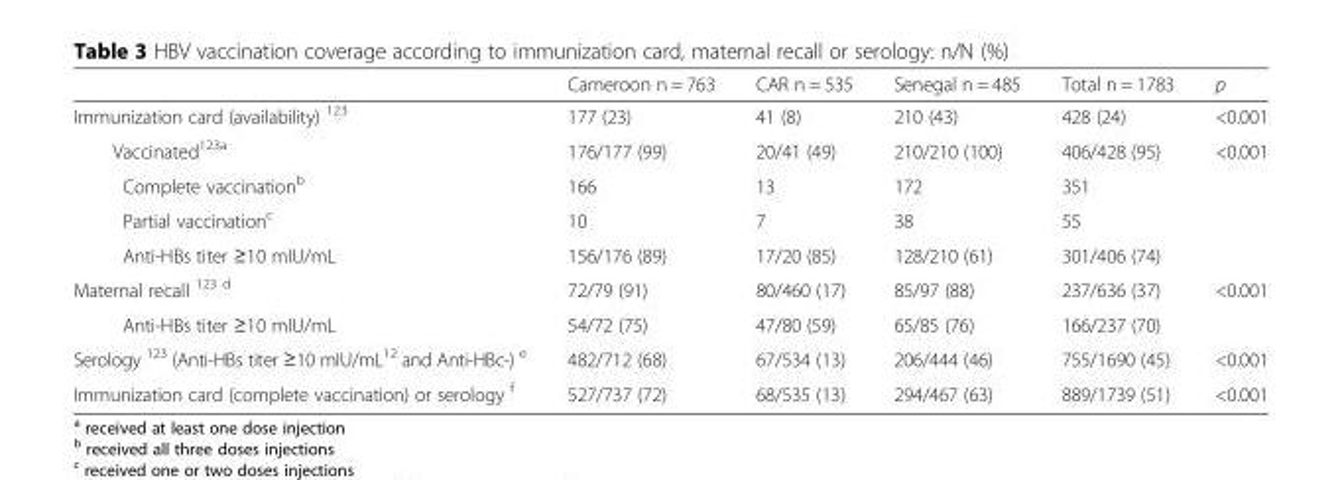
<table><thead><tr><td></td><td>Cameroon n = 763</td><td>CAR n = 535</td><td>Senegal n = 485</td><td>Total n = 1783</td><td>p</td></tr></thead><tbody><tr><td>Immunization card (availability) <sup>123</sup></td><td>177 (23)</td><td>41 (8)</td><td>210 (43)</td><td>428 (24)</td><td>&lt;0.001</td></tr><tr><td>Vaccinated<sup>123a</sup></td><td>176/177 (99)</td><td>20/41 (49)</td><td>210/210 (100)</td><td>406/428 (95)</td><td>&lt;0.001</td></tr><tr><td>Complete vaccination<sup>b</sup></td><td>166</td><td>13</td><td>172</td><td>351</td><td></td></tr><tr><td>Partial vaccination<sup>c</sup></td><td>10</td><td>7</td><td>38</td><td>55</td><td></td></tr><tr><td>Anti-HBs titer ≥10 mIU/mL</td><td>156/176 (89)</td><td>17/20 (85)</td><td>128/210 (61)</td><td>301/406 (74)</td><td></td></tr><tr><td>Maternal recall <sup>123 d</sup></td><td>72/79 (91)</td><td>80/460 (17)</td><td>85/97 (88)</td><td>237/636 (37)</td><td>&lt;0.001</td></tr><tr><td>Anti-HBs titer ≥10 mIU/mL</td><td>54/72 (75)</td><td>47/80 (59)</td><td>65/85 (76)</td><td>166/237 (70)</td><td></td></tr><tr><td>Serology <sup>123</sup> (Anti-HBs titer ≥10 mIU/mL<sup>12</sup> and Anti-HBc-) <sup>e</sup></td><td>482/712 (68)</td><td>67/534 (13)</td><td>206/444 (46)</td><td>755/1690 (45)</td><td>&lt;0.001</td></tr><tr><td>Immunization card (complete vaccination) or serology <sup>f</sup></td><td>527/737 (72)</td><td>68/535 (13)</td><td>294/467 (63)</td><td>889/1739 (51)</td><td>&lt;0.001</td></tr></tbody></table>